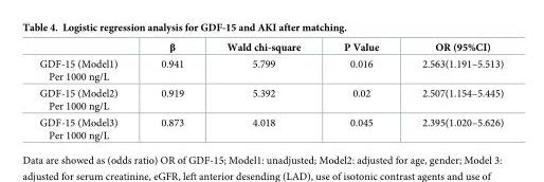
<table><thead><tr><td></td><td>β</td><td>Wald chi-square</td><td>P Value</td><td>OR (95%CI)</td></tr></thead><tbody><tr><td>GDF-15 (Model1) Per 1000 ng/L</td><td>0.941</td><td>5.799</td><td>0.016</td><td>2.563(1.191–5.513)</td></tr><tr><td>GDF-15 (Model2) Per 1000 ng/L</td><td>0.919</td><td>5.392</td><td>0.02</td><td>2.507(1.154–5.445)</td></tr><tr><td>GDF-15 (Model3) Per 1000 ng/L</td><td>0.873</td><td>4.018</td><td>0.045</td><td>2.395(1.020–5.626)</td></tr></tbody></table>